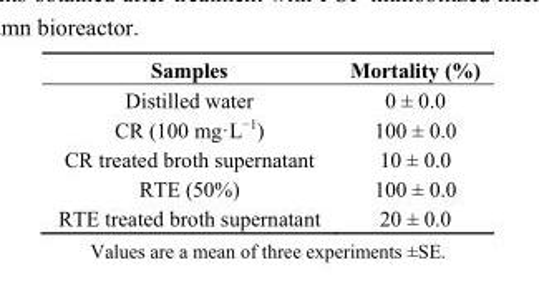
<table><thead><tr><td>Samples</td><td>Mortality (%)</td></tr></thead><tbody><tr><td>Distilled water</td><td>0 ± 0.0</td></tr><tr><td>CR (100 mg·L<sup>−1</sup>)</td><td>100 ± 0.0</td></tr><tr><td>CR treated broth supernatant</td><td>10 ± 0.0</td></tr><tr><td>RTE (50%)</td><td>100 ± 0.0</td></tr><tr><td>RTE treated broth supernatant</td><td>20 ± 0.0</td></tr></tbody></table>